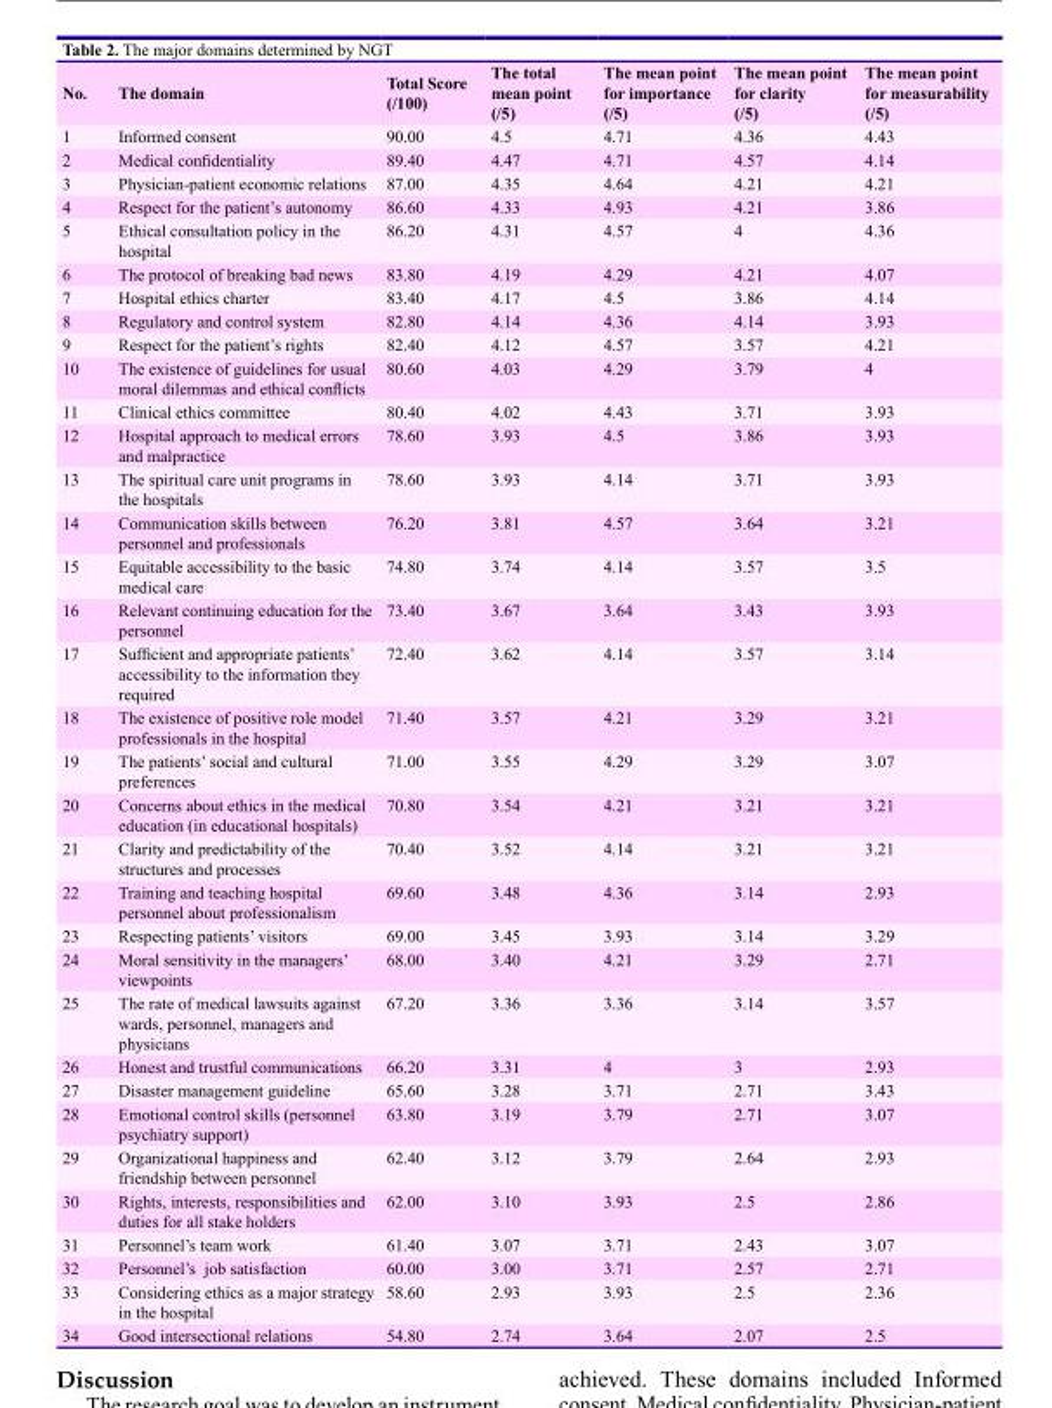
<table><thead><tr><td>No.</td><td>The domain</td><td>Total Score (/100)</td><td>The total mean point (/5)</td><td>The mean point for importance (/5)</td><td>The mean point for clarity (/5)</td><td>The mean point for measurability (/5)</td></tr></thead><tbody><tr><td>1</td><td>Informed consent</td><td>90.00</td><td>4.5</td><td>4.71</td><td>4.36</td><td>4.43</td></tr><tr><td>2</td><td>Medical confidentiality</td><td>89.40</td><td>4.47</td><td>4.71</td><td>4.57</td><td>4.14</td></tr><tr><td>3</td><td>Physician-patient economic relations</td><td>87.00</td><td>4.35</td><td>4.64</td><td>4.21</td><td>4.21</td></tr><tr><td>4</td><td>Respect for the patient’s autonomy</td><td>86.60</td><td>4.33</td><td>4.93</td><td>4.21</td><td>3.86</td></tr><tr><td>5</td><td>Ethical consultation policy in the hospital</td><td>86.20</td><td>4.31</td><td>4.57</td><td>4</td><td>4.36</td></tr><tr><td>6</td><td>The protocol of breaking bad news</td><td>83.80</td><td>4.19</td><td>4.29</td><td>4.21</td><td>4.07</td></tr><tr><td>7</td><td>Hospital ethics charter</td><td>83.40</td><td>4.17</td><td>4.5</td><td>3.86</td><td>4.14</td></tr><tr><td>8</td><td>Regulatory and control system</td><td>82.80</td><td>4.14</td><td>4.36</td><td>4.14</td><td>3.93</td></tr><tr><td>9</td><td>Respect for the patient’s rights</td><td>82.40</td><td>4.12</td><td>4.57</td><td>3.57</td><td>4.21</td></tr><tr><td>10</td><td>The existence of guidelines for usual moral dilemmas and ethical conflicts</td><td>80.60</td><td>4.03</td><td>4.29</td><td>3.79</td><td>4</td></tr><tr><td>11</td><td>Clinical ethics committee</td><td>80.40</td><td>4.02</td><td>4.43</td><td>3.71</td><td>3.93</td></tr><tr><td>12</td><td>Hospital approach to medical errors and malpractice</td><td>78.60</td><td>3.93</td><td>4.5</td><td>3.86</td><td>3.93</td></tr><tr><td>13</td><td>The spiritual care unit programs in the hospitals</td><td>78.60</td><td>3.93</td><td>4.14</td><td>3.71</td><td>3.93</td></tr><tr><td>14</td><td>Communication skills between personnel and professionals</td><td>76.20</td><td>3.81</td><td>4.57</td><td>3.64</td><td>3.21</td></tr><tr><td>15</td><td>Equitable accessibility to the basic medical care</td><td>74.80</td><td>3.74</td><td>4.14</td><td>3.57</td><td>3.5</td></tr><tr><td>16</td><td>Relevant continuing education for the personnel</td><td>73.40</td><td>3.67</td><td>3.64</td><td>3.43</td><td>3.93</td></tr><tr><td>17</td><td>Sufficient and appropriate patients’ accessibility to the information they required</td><td>72.40</td><td>3.62</td><td>4.14</td><td>3.57</td><td>3.14</td></tr><tr><td>18</td><td>The existence of positive role model professionals in the hospital</td><td>71.40</td><td>3.57</td><td>4.21</td><td>3.29</td><td>3.21</td></tr><tr><td>19</td><td>The patients’ social and cultural preferences</td><td>71.00</td><td>3.55</td><td>4.29</td><td>3.29</td><td>3.07</td></tr><tr><td>20</td><td>Concerns about ethics in the medical education (in educational hospitals)</td><td>70.80</td><td>3.54</td><td>4.21</td><td>3.21</td><td>3.21</td></tr><tr><td>21</td><td>Clarity and predictability of the structures and processes</td><td>70.40</td><td>3.52</td><td>4.14</td><td>3.21</td><td>3.21</td></tr><tr><td>22</td><td>Training and teaching hospital personnel about professionalism</td><td>69.60</td><td>3.48</td><td>4.36</td><td>3.14</td><td>2.93</td></tr><tr><td>23</td><td>Respecting patients’ visitors</td><td>69.00</td><td>3.45</td><td>3.93</td><td>3.14</td><td>3.29</td></tr><tr><td>24</td><td>Moral sensitivity in the managers’ viewpoints</td><td>68.00</td><td>3.40</td><td>4.21</td><td>3.29</td><td>2.71</td></tr><tr><td>25</td><td>The rate of medical lawsuits against wards, personnel, managers and physicians</td><td>67.20</td><td>3.36</td><td>3.36</td><td>3.14</td><td>3.57</td></tr><tr><td>26</td><td>Honest and trustful communications</td><td>66.20</td><td>3.31</td><td>4</td><td>3</td><td>2.93</td></tr><tr><td>27</td><td>Disaster management guideline</td><td>65.60</td><td>3.28</td><td>3.71</td><td>2.71</td><td>3.43</td></tr><tr><td>28</td><td>Emotional control skills (personnel psychiatry support)</td><td>63.80</td><td>3.19</td><td>3.79</td><td>2.71</td><td>3.07</td></tr><tr><td>29</td><td>Organizational happiness and friendship between personnel</td><td>62.40</td><td>3.12</td><td>3.79</td><td>2.64</td><td>2.93</td></tr><tr><td>30</td><td>Rights, interests, responsibilities and duties for all stake holders</td><td>62.00</td><td>3.10</td><td>3.93</td><td>2.5</td><td>2.86</td></tr><tr><td>31</td><td>Personnel’s team work</td><td>61.40</td><td>3.07</td><td>3.71</td><td>2.43</td><td>3.07</td></tr><tr><td>32</td><td>Personnel’s job satisfaction</td><td>60.00</td><td>3.00</td><td>3.71</td><td>2.57</td><td>2.71</td></tr><tr><td>33</td><td>Considering ethics as a major strategy in the hospital</td><td>58.60</td><td>2.93</td><td>3.93</td><td>2.5</td><td>2.36</td></tr><tr><td>34</td><td>Good intersectional relations</td><td>54.80</td><td>2.74</td><td>3.64</td><td>2.07</td><td>2.5</td></tr></tbody></table>